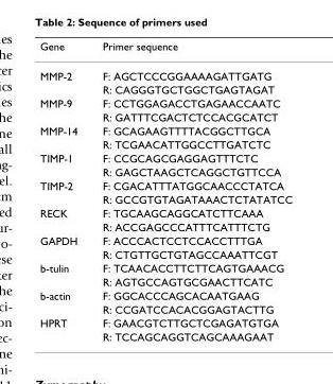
<table><thead><tr><td>Gene</td><td>Primer sequence</td></tr></thead><tbody><tr><td rowspan="2">MMP-2</td><td>F: AGCTCCCGGAAAAGATTGATG</td></tr><tr><td>R: CAGGGTGCTGGCTGAGTAGAT</td></tr><tr><td rowspan="2">MMP-9</td><td>F: CCTGGAGACCTGAGAACCAATC</td></tr><tr><td>R: GATTTCGACTCTCCACGCATCT</td></tr><tr><td rowspan="2">MMP-14</td><td>F: GCAGAAGTTTTACGGCTTGCA</td></tr><tr><td>R: TCGAACATTGGCCTTGATCTC</td></tr><tr><td rowspan="2">TIMP-1</td><td>F: CCGCAGCGAGGAGTTTCTC</td></tr><tr><td>R: GAGCTAAGCTCAGGCTGTTCCA</td></tr><tr><td rowspan="2">TIMP-2</td><td>F: CGACATTTATGGCAACCCTATCA</td></tr><tr><td>R: GCCGTGTAGATAAACTCTATATCC</td></tr><tr><td rowspan="2">RECK</td><td>F: TGCAAGCAGGCATCTTCAAA</td></tr><tr><td>R: ACCGAGCCCATTTCATTTCTG</td></tr><tr><td rowspan="2">GAPDH</td><td>F: ACCCACTCCTCCACCTTTGA</td></tr><tr><td>R: CTGTTGCTGTAGCCAAATTCGT</td></tr><tr><td rowspan="2">b-tulin</td><td>F: TCAACACCTTCTTCAGTGAAACG</td></tr><tr><td>R: AGTGCCAGTGCGAACTTCATC</td></tr><tr><td rowspan="2">b-actin</td><td>F: GGCACCCAGCACAATGAAG</td></tr><tr><td>R: CCGATCCACACGGAGTACTTG</td></tr><tr><td rowspan="2">HPRT</td><td>F: GAACGTCTTGCTCGAGATGTGA</td></tr><tr><td>R: TCCAGCAGGTCAGCAAAGAAT</td></tr></tbody></table>